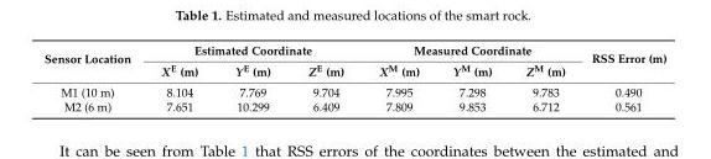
<table><thead><tr><td rowspan="2">Sensor Location</td><td colspan="3">Estimated Coordinate</td><td colspan="3">Measured Coordinate</td><td rowspan="2">RSS Error (m)</td></tr><tr><td>X<sup>E</sup> (m)</td><td>Y<sup>E</sup> (m)</td><td>Z<sup>E</sup> (m)</td><td>X<sup>M</sup> (m)</td><td>Y<sup>M</sup> (m)</td><td>Z<sup>M</sup> (m)</td></tr></thead><tbody><tr><td>M1 (10 m)</td><td>8.104</td><td>7.769</td><td>9.704</td><td>7.995</td><td>7.298</td><td>9.783</td><td>0.490</td></tr><tr><td>M2 (6 m)</td><td>7.651</td><td>10.299</td><td>6.409</td><td>7.809</td><td>9.853</td><td>6.712</td><td>0.561</td></tr></tbody></table>